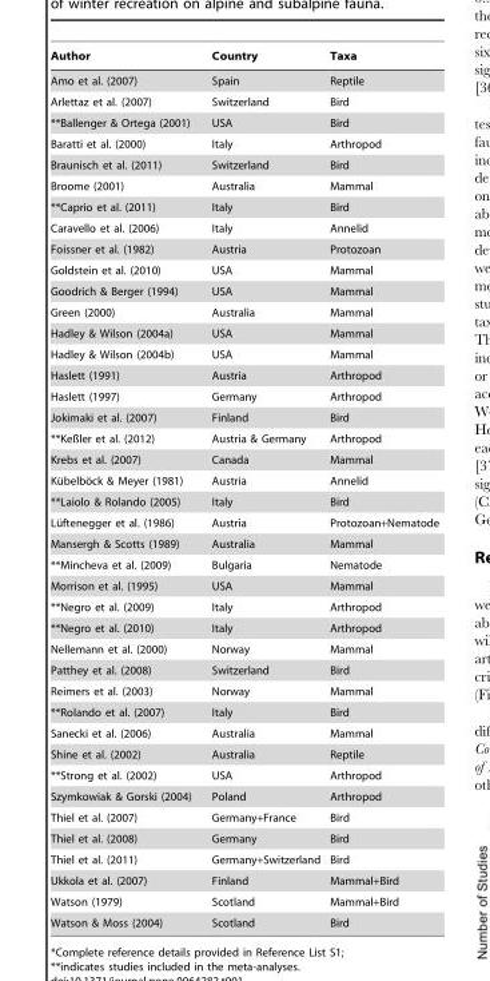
<table><thead><tr><td>Author</td><td>Country</td><td>Taxa</td></tr></thead><tbody><tr><td>Amo et al. (2007)</td><td>Spain</td><td>Reptile</td></tr><tr><td>Arlettaz et al. (2007)</td><td>Switzerland</td><td>Bird</td></tr><tr><td>**Ballenger &amp; Ortega (2001)</td><td>USA</td><td>Bird</td></tr><tr><td>Baratti et al. (2000)</td><td>Italy</td><td>Arthropod</td></tr><tr><td>Braunisch et al. (2011)</td><td>Switzerland</td><td>Bird</td></tr><tr><td>Broome (2001)</td><td>Australia</td><td>Mammal</td></tr><tr><td>**Caprio et al. (2011)</td><td>Italy</td><td>Bird</td></tr><tr><td>Caravello et al. (2006)</td><td>Italy</td><td>Annelid</td></tr><tr><td>Foissner et al. (1982)</td><td>Austria</td><td>Protozoan</td></tr><tr><td>Goldstein et al. (2010)</td><td>USA</td><td>Mammal</td></tr><tr><td>Goodrich &amp; Berger (1994)</td><td>USA</td><td>Mammal</td></tr><tr><td>Green (2000)</td><td>Australia</td><td>Mammal</td></tr><tr><td>Hadley &amp; Wilson (2004a)</td><td>USA</td><td>Mammal</td></tr><tr><td>Hadley &amp; Wilson (2004b)</td><td>USA</td><td>Mammal</td></tr><tr><td>Haslett (1991)</td><td>Austria</td><td>Arthropod</td></tr><tr><td>Haslett (1997)</td><td>Germany</td><td>Arthropod</td></tr><tr><td>Jokimaki et al. (2007)</td><td>Finland</td><td>Bird</td></tr><tr><td>**Keßler et al. (2012)</td><td>Austria &amp; Germany</td><td>Arthropod</td></tr><tr><td>Krebs et al. (2007)</td><td>Canada</td><td>Mammal</td></tr><tr><td>Ku¨belbo¨ck &amp; Meyer (1981)</td><td>Austria</td><td>Annelid</td></tr><tr><td>**Laiolo &amp; Rolando (2005)</td><td>Italy</td><td>Bird</td></tr><tr><td>Lu¨ftenegger et al. (1986)</td><td>Austria</td><td>Protozoan+Nematode</td></tr><tr><td>Mansergh &amp; Scotts (1989)</td><td>Australia</td><td>Mammal</td></tr><tr><td>**Mincheva et al. (2009)</td><td>Bulgaria</td><td>Nematode</td></tr><tr><td>Morrison et al. (1995)</td><td>USA</td><td>Mammal</td></tr><tr><td>**Negro et al. (2009)</td><td>Italy</td><td>Arthropod</td></tr><tr><td>**Negro et al. (2010)</td><td>Italy</td><td>Arthropod</td></tr><tr><td>Nellemann et al. (2000)</td><td>Norway</td><td>Mammal</td></tr><tr><td>Patthey et al. (2008)</td><td>Switzerland</td><td>Bird</td></tr><tr><td>Reimers et al. (2003)</td><td>Norway</td><td>Mammal</td></tr><tr><td>**Rolando et al. (2007)</td><td>Italy</td><td>Bird</td></tr><tr><td>Sanecki et al. (2006)</td><td>Australia</td><td>Mammal</td></tr><tr><td>Shine et al. (2002)</td><td>Australia</td><td>Reptile</td></tr><tr><td>**Strong et al. (2002)</td><td>USA</td><td>Arthropod</td></tr><tr><td>Szymkowiak &amp; Gorski (2004)</td><td>Poland</td><td>Arthropod</td></tr><tr><td>Thiel et al. (2007)</td><td>Germany+France</td><td>Bird</td></tr><tr><td>Thiel et al. (2008)</td><td>Germany</td><td>Bird</td></tr><tr><td>Thiel et al. (2011)</td><td>Germany+Switzerland</td><td>Bird</td></tr><tr><td>Ukkola et al. (2007)</td><td>Finland</td><td>Mammal+Bird</td></tr><tr><td>Watson (1979)</td><td>Scotland</td><td>Mammal+Bird</td></tr><tr><td>Watson &amp; Moss (2004)</td><td>Scotland</td><td>Bird</td></tr></tbody></table>